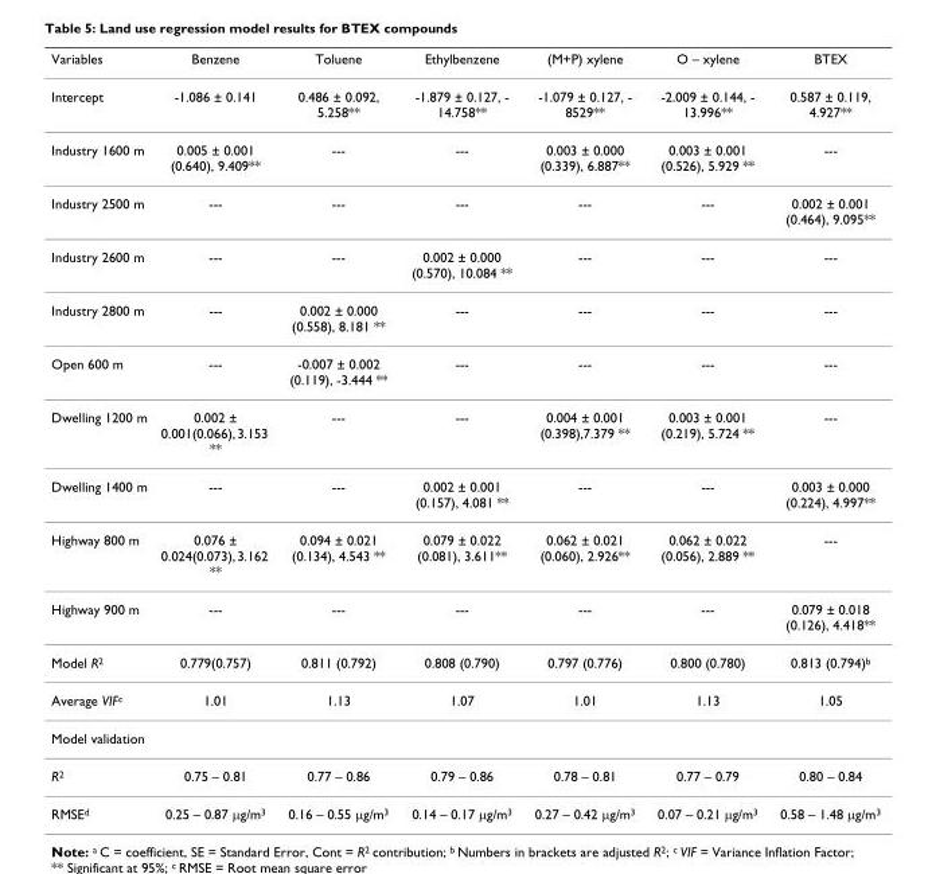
<table><thead><tr><td>Variables</td><td>Benzene</td><td>Toluene</td><td>Ethylbenzene</td><td>(M+P) xylene</td><td>O – xylene</td><td>BTEX</td></tr></thead><tbody><tr><td>Intercept</td><td>-1.086 ± 0.141</td><td>0.486 ± 0.092, 5.258**</td><td>-1.879 ± 0.127, - 14.758**</td><td>-1.079 ± 0.127, - 8529**</td><td>-2.009 ± 0.144, - 13.996**</td><td>0.587 ± 0.119, 4.927**</td></tr><tr><td>Industry 1600 m</td><td>0.005 ± 0.001 (0.640), 9.409**</td><td>---</td><td>---</td><td>0.003 ± 0.000 (0.339), 6.887**</td><td>0.003 ± 0.001 (0.526), 5.929 **</td><td>---</td></tr><tr><td>Industry 2500 m</td><td>---</td><td>---</td><td>---</td><td>---</td><td>---</td><td>0.002 ± 0.001 (0.464), 9.095**</td></tr><tr><td>Industry 2600 m</td><td>---</td><td>---</td><td>0.002 ± 0.000 (0.570), 10.084 **</td><td>---</td><td>---</td><td>---</td></tr><tr><td>Industry 2800 m</td><td>---</td><td>0.002 ± 0.000 (0.558), 8.181 **</td><td>---</td><td>---</td><td>---</td><td>---</td></tr><tr><td>Open 600 m</td><td>---</td><td>-0.007 ± 0.002 (0.119), -3.444 **</td><td>---</td><td>---</td><td>---</td><td>---</td></tr><tr><td>Dwelling 1200 m</td><td>0.002 ± 0.001(0.066), 3.153 **</td><td>---</td><td>---</td><td>0.004 ± 0.001 (0.398),7.379 **</td><td>0.003 ± 0.001 (0.219), 5.724 **</td><td>---</td></tr><tr><td>Dwelling 1400 m</td><td>---</td><td>---</td><td>0.002 ± 0.001 (0.157), 4.081 **</td><td>---</td><td>---</td><td>0.003 ± 0.000 (0.224), 4.997**</td></tr><tr><td>Highway 800 m</td><td>0.076 ± 0.024(0.073), 3.162 **</td><td>0.094 ± 0.021 (0.134), 4.543 **</td><td>0.079 ± 0.022 (0.081), 3.611**</td><td>0.062 ± 0.021 (0.060), 2.926**</td><td>0.062 ± 0.022 (0.056), 2.889 **</td><td>---</td></tr><tr><td>Highway 900 m</td><td>---</td><td>---</td><td>---</td><td>---</td><td>---</td><td>0.079 ± 0.018 (0.126), 4.418**</td></tr><tr><td>Model R<sup>2</sup></td><td>0.779(0.757)</td><td>0.811 (0.792)</td><td>0.808 (0.790)</td><td>0.797 (0.776)</td><td>0.800 (0.780)</td><td>0.813 (0.794)<sup>b</sup></td></tr><tr><td>Average VIF<sup>c</sup></td><td>1.01</td><td>1.13</td><td>1.07</td><td>1.01</td><td>1.13</td><td>1.05</td></tr><tr><td colspan="7">Model validation</td></tr><tr><td>R<sup>2</sup></td><td>0.75 – 0.81</td><td>0.77 – 0.86</td><td>0.79 – 0.86</td><td>0.78 – 0.81</td><td>0.77 – 0.79</td><td>0.80 – 0.84</td></tr><tr><td>RMSE<sup>d</sup></td><td>0.25 – 0.87 μg/m<sup>3</sup></td><td>0.16 – 0.55 μg/m<sup>3</sup></td><td>0.14 – 0.17 μg/m<sup>3</sup></td><td>0.27 – 0.42 μg/m<sup>3</sup></td><td>0.07 – 0.21 μg/m<sup>3</sup></td><td>0.58 – 1.48 μg/m<sup>3</sup></td></tr></tbody></table>